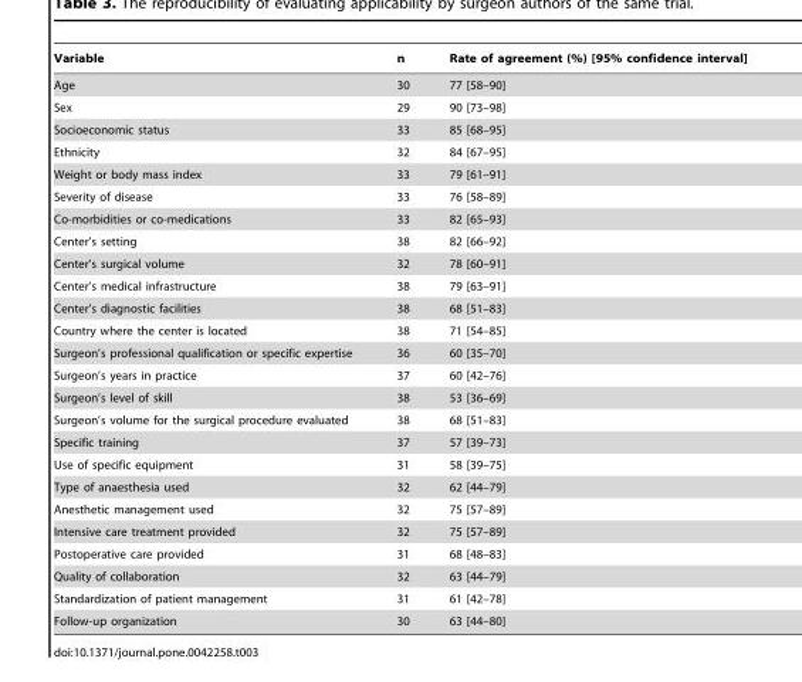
<table><thead><tr><td>Variable</td><td>n</td><td>Rate of agreement (%) [95% confidence interval]</td></tr></thead><tbody><tr><td>Age</td><td>30</td><td>77 [58–90]</td></tr><tr><td>Sex</td><td>29</td><td>90 [73–98]</td></tr><tr><td>Socioeconomic status</td><td>33</td><td>85 [68–95]</td></tr><tr><td>Ethnicity</td><td>32</td><td>84 [67–95]</td></tr><tr><td>Weight or body mass index</td><td>33</td><td>79 [61–91]</td></tr><tr><td>Severity of disease</td><td>33</td><td>76 [58–89]</td></tr><tr><td>Co-morbidities or co-medications</td><td>33</td><td>82 [65–93]</td></tr><tr><td>Center’s setting</td><td>38</td><td>82 [66–92]</td></tr><tr><td>Center’s surgical volume</td><td>32</td><td>78 [60–91]</td></tr><tr><td>Center’s medical infrastructure</td><td>38</td><td>79 [63–91]</td></tr><tr><td>Center’s diagnostic facilities</td><td>38</td><td>68 [51–83]</td></tr><tr><td>Country where the center is located</td><td>38</td><td>71 [54–85]</td></tr><tr><td>Surgeon’s professional qualification or specific expertise</td><td>36</td><td>60 [35–70]</td></tr><tr><td>Surgeon’s years in practice</td><td>37</td><td>60 [42–76]</td></tr><tr><td>Surgeon’s level of skill</td><td>38</td><td>53 [36–69]</td></tr><tr><td>Surgeon’s volume for the surgical procedure evaluated</td><td>38</td><td>68 [51–83]</td></tr><tr><td>Specific training</td><td>37</td><td>57 [39–73]</td></tr><tr><td>Use of specific equipment</td><td>31</td><td>58 [39–75]</td></tr><tr><td>Type of anaesthesia used</td><td>32</td><td>62 [44–79]</td></tr><tr><td>Anesthetic management used</td><td>32</td><td>75 [57–89]</td></tr><tr><td>Intensive care treatment provided</td><td>32</td><td>75 [57–89]</td></tr><tr><td>Postoperative care provided</td><td>31</td><td>68 [48–83]</td></tr><tr><td>Quality of collaboration</td><td>32</td><td>63 [44–79]</td></tr><tr><td>Standardization of patient management</td><td>31</td><td>61 [42–78]</td></tr><tr><td>Follow-up organization</td><td>30</td><td>63 [44–80]</td></tr></tbody></table>